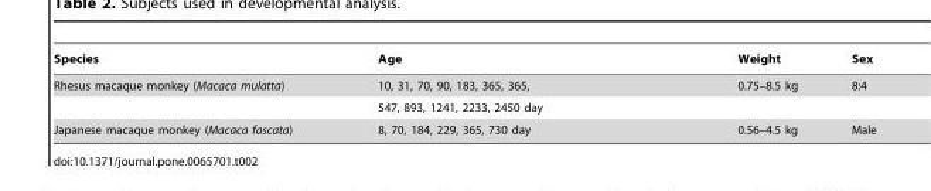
<table><thead><tr><td>Species</td><td>Age</td><td>Weight</td><td>Sex</td></tr></thead><tbody><tr><td rowspan="2">Rhesus macaque monkey (Macaca mulatta)</td><td>10, 31, 70, 90, 183, 365, 365,</td><td>0.75–8.5 kg</td><td>8:4</td></tr><tr><td>547, 893, 1241, 2233, 2450 day</td><td></td><td></td></tr><tr><td>Japanese macaque monkey (Macaca fascata)</td><td>8, 70, 184, 229, 365, 730 day</td><td>0.56–4.5 kg</td><td>Male</td></tr></tbody></table>